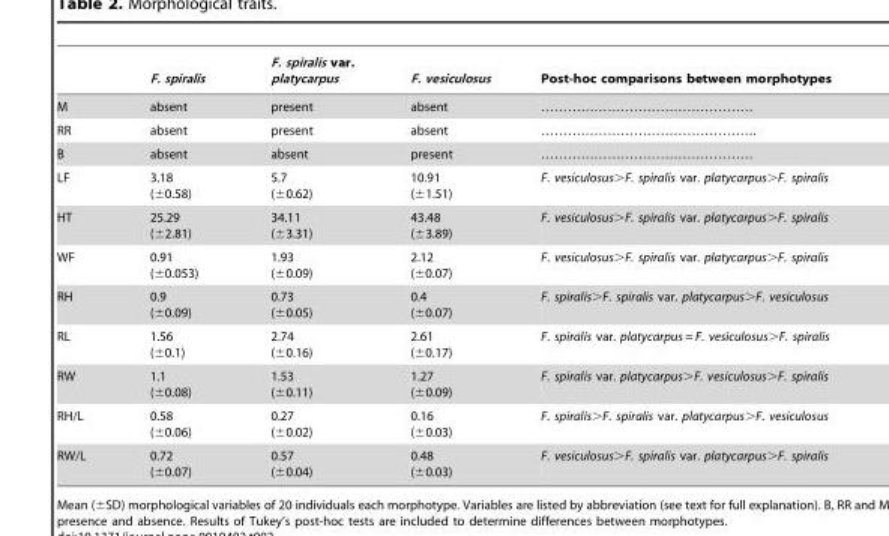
<table><thead><tr><td></td><td>F. spiralis</td><td>F. spiralis var. platycarpus</td><td>F. vesiculosus</td><td>Post-hoc comparisons between morphotypes</td></tr></thead><tbody><tr><td>M</td><td>absent</td><td>present</td><td>absent</td><td>…………………………………………</td></tr><tr><td>RR</td><td>absent</td><td>present</td><td>absent</td><td>………………………………………….</td></tr><tr><td>B</td><td>absent</td><td>absent</td><td>present</td><td>…………………………………………</td></tr><tr><td>LF</td><td>3.18 (±0.58)</td><td>5.7 (±0.62)</td><td>10.91 (±1.51)</td><td>F. vesiculosus&gt;F. spiralis var. platycarpus&gt;F. spiralis</td></tr><tr><td>HT</td><td>25.29 (±2.81)</td><td>34.11 (±3.31)</td><td>43.48 (±3.89)</td><td>F. vesiculosus&gt;F. spiralis var. platycarpus&gt;F. spiralis</td></tr><tr><td>WF</td><td>0.91 (±0.053)</td><td>1.93 (±0.09)</td><td>2.12 (±0.07)</td><td>F. vesiculosus&gt;F. spiralis var. platycarpus&gt;F. spiralis</td></tr><tr><td>RH</td><td>0.9 (±0.09)</td><td>0.73 (±0.05)</td><td>0.4 (±0.07)</td><td>F. spiralis&gt;F. spiralis var. platycarpus&gt;F. vesiculosus</td></tr><tr><td>RL</td><td>1.56 (±0.1)</td><td>2.74 (±0.16)</td><td>2.61 (±0.17)</td><td>F. spiralis var. platycarpus = F. vesiculosus&gt;F. spiralis</td></tr><tr><td>RW</td><td>1.1 (±0.08)</td><td>1.53 (±0.11)</td><td>1.27 (±0.09)</td><td>F. spiralis var. platycarpus&gt;F. vesiculosus&gt;F. spiralis</td></tr><tr><td>RH/L</td><td>0.58 (±0.06)</td><td>0.27 (±0.02)</td><td>0.16 (±0.03)</td><td>F. spiralis&gt;F. spiralis var. platycarpus&gt;F. vesiculosus</td></tr><tr><td>RW/L</td><td>0.72 (±0.07)</td><td>0.57 (±0.04)</td><td>0.48 (±0.03)</td><td>F. vesiculosus&gt;F. spiralis var. platycarpus&gt;F. spiralis</td></tr></tbody></table>